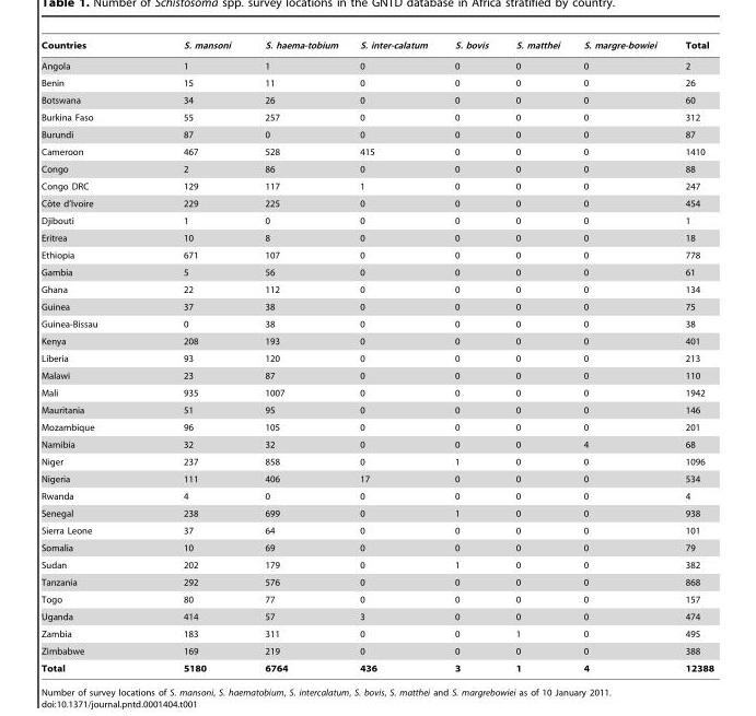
<table><thead><tr><td>Countries</td><td>S. mansoni</td><td>S. haema-tobium</td><td>S. inter-calatum</td><td>S. bovis</td><td>S. matthei</td><td>S. margre-bowiei</td><td>Total</td></tr></thead><tbody><tr><td>Angola</td><td>1</td><td>1</td><td>0</td><td>0</td><td>0</td><td>0</td><td>2</td></tr><tr><td>Benin</td><td>15</td><td>11</td><td>0</td><td>0</td><td>0</td><td>0</td><td>26</td></tr><tr><td>Botswana</td><td>34</td><td>26</td><td>0</td><td>0</td><td>0</td><td>0</td><td>60</td></tr><tr><td>Burkina Faso</td><td>55</td><td>257</td><td>0</td><td>0</td><td>0</td><td>0</td><td>312</td></tr><tr><td>Burundi</td><td>87</td><td>0</td><td>0</td><td>0</td><td>0</td><td>0</td><td>87</td></tr><tr><td>Cameroon</td><td>467</td><td>528</td><td>415</td><td>0</td><td>0</td><td>0</td><td>1410</td></tr><tr><td>Congo</td><td>2</td><td>86</td><td>0</td><td>0</td><td>0</td><td>0</td><td>88</td></tr><tr><td>Congo DRC</td><td>129</td><td>117</td><td>1</td><td>0</td><td>0</td><td>0</td><td>247</td></tr><tr><td>Coˆte d’Ivoire</td><td>229</td><td>225</td><td>0</td><td>0</td><td>0</td><td>0</td><td>454</td></tr><tr><td>Djibouti</td><td>1</td><td>0</td><td>0</td><td>0</td><td>0</td><td>0</td><td>1</td></tr><tr><td>Eritrea</td><td>10</td><td>8</td><td>0</td><td>0</td><td>0</td><td>0</td><td>18</td></tr><tr><td>Ethiopia</td><td>671</td><td>107</td><td>0</td><td>0</td><td>0</td><td>0</td><td>778</td></tr><tr><td>Gambia</td><td>5</td><td>56</td><td>0</td><td>0</td><td>0</td><td>0</td><td>61</td></tr><tr><td>Ghana</td><td>22</td><td>112</td><td>0</td><td>0</td><td>0</td><td>0</td><td>134</td></tr><tr><td>Guinea</td><td>37</td><td>38</td><td>0</td><td>0</td><td>0</td><td>0</td><td>75</td></tr><tr><td>Guinea-Bissau</td><td>0</td><td>38</td><td>0</td><td>0</td><td>0</td><td>0</td><td>38</td></tr><tr><td>Kenya</td><td>208</td><td>193</td><td>0</td><td>0</td><td>0</td><td>0</td><td>401</td></tr><tr><td>Liberia</td><td>93</td><td>120</td><td>0</td><td>0</td><td>0</td><td>0</td><td>213</td></tr><tr><td>Malawi</td><td>23</td><td>87</td><td>0</td><td>0</td><td>0</td><td>0</td><td>110</td></tr><tr><td>Mali</td><td>935</td><td>1007</td><td>0</td><td>0</td><td>0</td><td>0</td><td>1942</td></tr><tr><td>Mauritania</td><td>51</td><td>95</td><td>0</td><td>0</td><td>0</td><td>0</td><td>146</td></tr><tr><td>Mozambique</td><td>96</td><td>105</td><td>0</td><td>0</td><td>0</td><td>0</td><td>201</td></tr><tr><td>Namibia</td><td>32</td><td>32</td><td>0</td><td>0</td><td>0</td><td>4</td><td>68</td></tr><tr><td>Niger</td><td>237</td><td>858</td><td>0</td><td>1</td><td>0</td><td>0</td><td>1096</td></tr><tr><td>Nigeria</td><td>111</td><td>406</td><td>17</td><td>0</td><td>0</td><td>0</td><td>534</td></tr><tr><td>Rwanda</td><td>4</td><td>0</td><td>0</td><td>0</td><td>0</td><td>0</td><td>4</td></tr><tr><td>Senegal</td><td>238</td><td>699</td><td>0</td><td>1</td><td>0</td><td>0</td><td>938</td></tr><tr><td>Sierra Leone</td><td>37</td><td>64</td><td>0</td><td>0</td><td>0</td><td>0</td><td>101</td></tr><tr><td>Somalia</td><td>10</td><td>69</td><td>0</td><td>0</td><td>0</td><td>0</td><td>79</td></tr><tr><td>Sudan</td><td>202</td><td>179</td><td>0</td><td>1</td><td>0</td><td>0</td><td>382</td></tr><tr><td>Tanzania</td><td>292</td><td>576</td><td>0</td><td>0</td><td>0</td><td>0</td><td>868</td></tr><tr><td>Togo</td><td>80</td><td>77</td><td>0</td><td>0</td><td>0</td><td>0</td><td>157</td></tr><tr><td>Uganda</td><td>414</td><td>57</td><td>3</td><td>0</td><td>0</td><td>0</td><td>474</td></tr><tr><td>Zambia</td><td>183</td><td>311</td><td>0</td><td>0</td><td>1</td><td>0</td><td>495</td></tr><tr><td>Zimbabwe</td><td>169</td><td>219</td><td>0</td><td>0</td><td>0</td><td>0</td><td>388</td></tr><tr><td>Total</td><td>5180</td><td>6764</td><td>436</td><td>3</td><td>1</td><td>4</td><td>12388</td></tr></tbody></table>